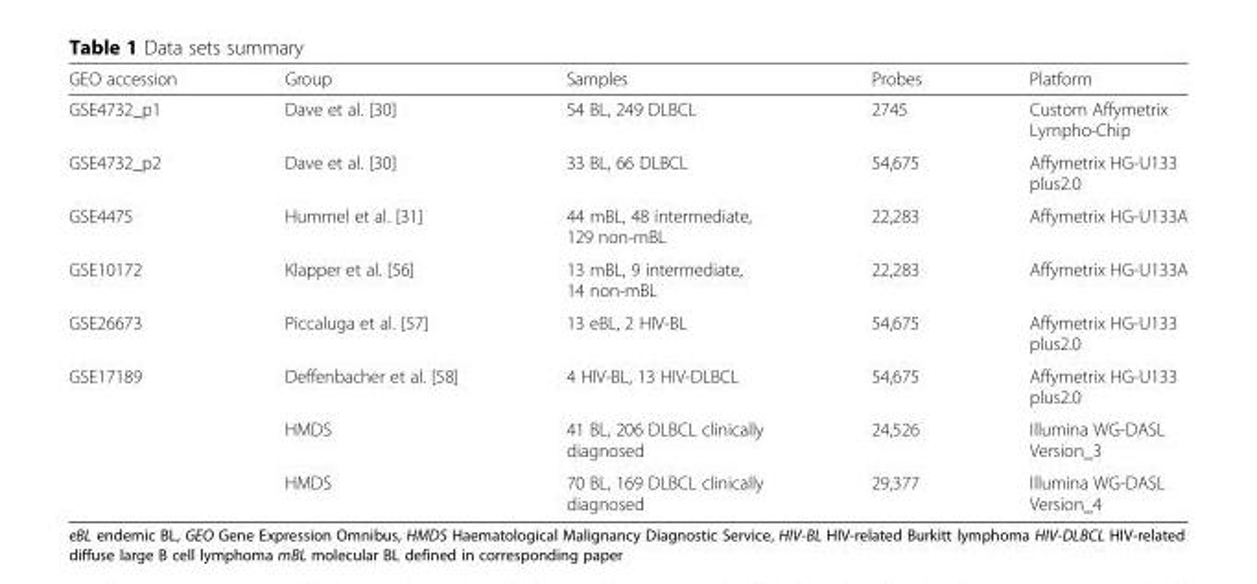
<table><thead><tr><td>GEO accession</td><td>Group</td><td>Samples</td><td>Probes</td><td>Platform</td></tr></thead><tbody><tr><td>GSE4732_p1</td><td>Dave et al. [30]</td><td>54 BL, 249 DLBCL</td><td>2745</td><td>Custom Affymetrix Lympho-Chip</td></tr><tr><td>GSE4732_p2</td><td>Dave et al. [30]</td><td>33 BL, 66 DLBCL</td><td>54,675</td><td>Affymetrix HG-U133 plus2.0</td></tr><tr><td>GSE4475</td><td>Hummel et al. [31]</td><td>44 mBL, 48 intermediate, 129 non-mBL</td><td>22,283</td><td>Affymetrix HG-U133A</td></tr><tr><td>GSE10172</td><td>Klapper et al. [56]</td><td>13 mBL, 9 intermediate, 14 non-mBL</td><td>22,283</td><td>Affymetrix HG-U133A</td></tr><tr><td>GSE26673</td><td>Piccaluga et al. [57]</td><td>13 eBL, 2 HIV-BL</td><td>54,675</td><td>Affymetrix HG-U133 plus2.0</td></tr><tr><td rowspan="3">GSE17189</td><td>Deffenbacher et al. [58]</td><td>4 HIV-BL, 13 HIV-DLBCL</td><td>54,675</td><td>Affymetrix HG-U133 plus2.0</td></tr><tr><td>HMDS</td><td>41 BL, 206 DLBCL clinically diagnosed</td><td>24,526</td><td>Illumina WG-DASL Version_3</td></tr><tr><td>HMDS</td><td>70 BL, 169 DLBCL clinically diagnosed</td><td>29,377</td><td>Illumina WG-DASL Version_4</td></tr></tbody></table>